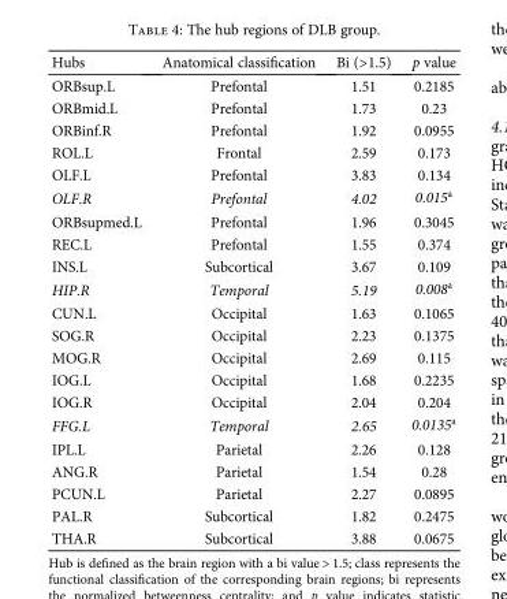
<table><thead><tr><td>Hubs</td><td>Anatomical classification</td><td>Bi (&gt;1.5)</td><td>p value</td></tr></thead><tbody><tr><td>ORBsup.L</td><td>Prefontal</td><td>1.51</td><td>0.2185</td></tr><tr><td>ORBmid.L</td><td>Prefontal</td><td>1.73</td><td>0.23</td></tr><tr><td>ORBinf.R</td><td>Prefontal</td><td>1.92</td><td>0.0955</td></tr><tr><td>ROL.L</td><td>Frontal</td><td>2.59</td><td>0.173</td></tr><tr><td>OLF.L</td><td>Prefontal</td><td>3.83</td><td>0.134</td></tr><tr><td>OLF.R</td><td>Prefontal</td><td>4.02</td><td>0.015<sup>a</sup></td></tr><tr><td>ORBsupmed.L</td><td>Prefontal</td><td>1.96</td><td>0.3045</td></tr><tr><td>REC.L</td><td>Prefontal</td><td>1.55</td><td>0.374</td></tr><tr><td>INS.L</td><td>Subcortical</td><td>3.67</td><td>0.109</td></tr><tr><td>HIP.R</td><td>Temporal</td><td>5.19</td><td>0.008<sup>a</sup></td></tr><tr><td>CUN.L</td><td>Occipital</td><td>1.63</td><td>0.1065</td></tr><tr><td>SOG.R</td><td>Occipital</td><td>2.23</td><td>0.1375</td></tr><tr><td>MOG.R</td><td>Occipital</td><td>2.69</td><td>0.115</td></tr><tr><td>IOG.L</td><td>Occipital</td><td>1.68</td><td>0.2235</td></tr><tr><td>IOG.R</td><td>Occipital</td><td>2.04</td><td>0.204</td></tr><tr><td>FFG.L</td><td>Temporal</td><td>2.65</td><td>0.0135<sup>a</sup></td></tr><tr><td>IPL.L</td><td>Parietal</td><td>2.26</td><td>0.128</td></tr><tr><td>ANG.R</td><td>Parietal</td><td>1.54</td><td>0.28</td></tr><tr><td>PCUN.L</td><td>Parietal</td><td>2.27</td><td>0.0895</td></tr><tr><td>PAL.R</td><td>Subcortical</td><td>1.82</td><td>0.2475</td></tr><tr><td>THA.R</td><td>Subcortical</td><td>3.88</td><td>0.0675</td></tr></tbody></table>